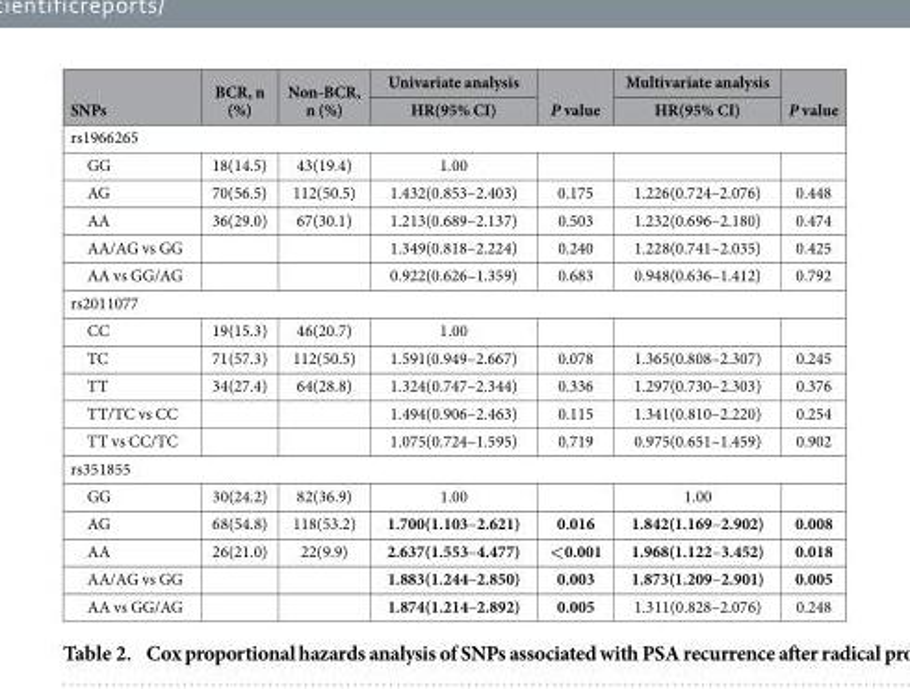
<table><thead><tr><td rowspan="2">SNPs</td><td rowspan="2">BCR, n (%)</td><td rowspan="2">Non-BCR, n (%)</td><td rowspan="2">Univariate analysis HR(95% CI)</td><td rowspan="2">P value</td><td rowspan="2">Multivariate analysis HR(95% CI)</td><td rowspan="2">P value</td></tr><tr></tr></thead><tbody><tr><td colspan="7">rs1966265</td></tr><tr><td>GG</td><td>18(14.5)</td><td>43(19.4)</td><td>1.00</td><td></td><td></td><td></td></tr><tr><td>AG</td><td>70(56.5)</td><td>112(50.5)</td><td>1.432(0.853–2.403)</td><td>0.175</td><td>1.226(0.724–2.076)</td><td>0.448</td></tr><tr><td>AA</td><td>36(29.0)</td><td>67(30.1)</td><td>1.213(0.689–2.137)</td><td>0.503</td><td>1.232(0.696–2.180)</td><td>0.474</td></tr><tr><td>AA/AG vs GG</td><td></td><td></td><td>1.349(0.818–2.224)</td><td>0.240</td><td>1.228(0.741–2.035)</td><td>0.425</td></tr><tr><td>AA vs GG/AG</td><td></td><td></td><td>0.922(0.626–1.359)</td><td>0.683</td><td>0.948(0.636–1.412)</td><td>0.792</td></tr><tr><td colspan="7">rs2011077</td></tr><tr><td>CC</td><td>19(15.3)</td><td>46(20.7)</td><td>1.00</td><td></td><td></td><td></td></tr><tr><td>TC</td><td>71(57.3)</td><td>112(50.5)</td><td>1.591(0.949–2.667)</td><td>0.078</td><td>1.365(0.808–2.307)</td><td>0.245</td></tr><tr><td>TT</td><td>34(27.4)</td><td>64(28.8)</td><td>1.324(0.747–2.344)</td><td>0.336</td><td>1.297(0.730–2.303)</td><td>0.376</td></tr><tr><td>TT/TC vs CC</td><td></td><td></td><td>1.494(0.906–2.463)</td><td>0.115</td><td>1.341(0.810–2.220)</td><td>0.254</td></tr><tr><td>TT vs CC/TC</td><td></td><td></td><td>1.075(0.724–1.595)</td><td>0.719</td><td>0.975(0.651–1.459)</td><td>0.902</td></tr><tr><td colspan="7">rs351855</td></tr><tr><td>GG</td><td>30(24.2)</td><td>82(36.9)</td><td>1.00</td><td></td><td>1.00</td><td></td></tr><tr><td>AG</td><td>68(54.8)</td><td>118(53.2)</td><td>1.700(1.103–2.621)</td><td>0.016</td><td>1.842(1.169–2.902)</td><td>0.008</td></tr><tr><td>AA</td><td>26(21.0)</td><td>22(9.9)</td><td>2.637(1.553–4.477)</td><td>&lt;0.001</td><td>1.968(1.122–3.452)</td><td>0.018</td></tr><tr><td>AA/AG vs GG</td><td></td><td></td><td>1.883(1.244–2.850)</td><td>0.003</td><td>1.873(1.209–2.901)</td><td>0.005</td></tr><tr><td>AA vs GG/AG</td><td></td><td></td><td>1.874(1.214–2.892)</td><td>0.005</td><td>1.311(0.828–2.076)</td><td>0.248</td></tr></tbody></table>